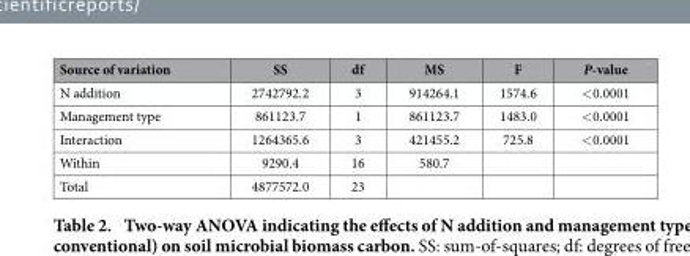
<table><thead><tr><td>Source of variation</td><td>SS</td><td>df</td><td>MS</td><td>F</td><td>P-value</td></tr></thead><tbody><tr><td>N addition</td><td>2742792.2</td><td>3</td><td>914264.1</td><td>1574.6</td><td>&lt; 0.0001</td></tr><tr><td>Management type</td><td>861123.7</td><td>1</td><td>861123.7</td><td>1483.0</td><td>&lt; 0.0001</td></tr><tr><td>Interaction</td><td>1264365.6</td><td>3</td><td>421455.2</td><td>725.8</td><td>&lt; 0.0001</td></tr><tr><td>Within</td><td>9290.4</td><td>16</td><td>580.7</td><td></td><td></td></tr><tr><td>Total</td><td>4877572.0</td><td>23</td><td></td><td></td><td></td></tr></tbody></table>